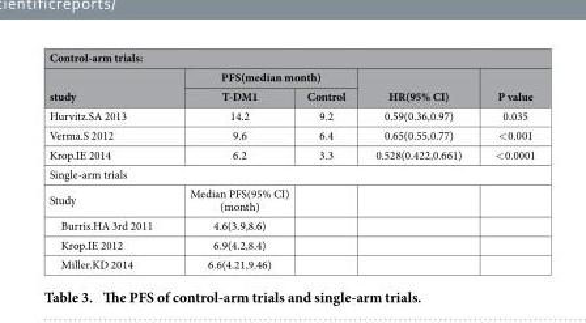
<table><thead><tr><td colspan="5">Control-arm trials:</td></tr><tr><td rowspan="2">study</td><td colspan="2">PFS(median month)</td><td rowspan="2">HR(95% CI)</td><td rowspan="2">P value</td></tr><tr><td>T-DM1</td><td>Control</td></tr></thead><tbody><tr><td>Hurvitz.SA 2013</td><td>14.2</td><td>9.2</td><td>0.59(0.36,0.97)</td><td>0.035</td></tr><tr><td>Verma.S 2012</td><td>9.6</td><td>6.4</td><td>0.65(0.55,0.77)</td><td>&lt; 0.001</td></tr><tr><td>Krop.IE 2014</td><td>6.2</td><td>3.3</td><td>0.528(0.422,0.661)</td><td>&lt; 0.0001</td></tr><tr><td colspan="5">Single-arm trials</td></tr><tr><td>Study</td><td>Median PFS(95% CI) (month)</td><td></td><td></td><td></td></tr><tr><td>Burris.HA 3rd 2011</td><td>4.6(3.9,8.6)</td><td></td><td></td><td></td></tr><tr><td>Krop.IE 2012</td><td>6.9(4.2,8.4)</td><td></td><td></td><td></td></tr><tr><td>Miller.KD 2014</td><td>6.6(4.21,9.46)</td><td></td><td></td><td></td></tr></tbody></table>